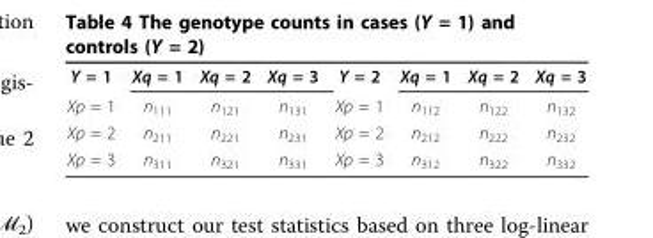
<table><tbody><tr><td>Y = 1</td><td>Xq = 1</td><td>Xq = 2</td><td>Xq = 3</td><td>Y = 2</td><td>Xq = 1</td><td>Xq = 2</td><td>Xq = 3</td></tr><tr><td>Xp = 1</td><td>n<sub>111</sub></td><td>n<sub>121</sub></td><td>n<sub>131</sub></td><td>Xp = 1</td><td>n<sub>112</sub></td><td>n<sub>122</sub></td><td>n<sub>132</sub></td></tr><tr><td>Xp = 2</td><td>n<sub>211</sub></td><td>n<sub>221</sub></td><td>n<sub>231</sub></td><td>Xp = 2</td><td>n<sub>212</sub></td><td>n<sub>222</sub></td><td>n<sub>232</sub></td></tr><tr><td>Xp = 3</td><td>n<sub>311</sub></td><td>n<sub>321</sub></td><td>n<sub>331</sub></td><td>Xp = 3</td><td>n<sub>312</sub></td><td>n<sub>322</sub></td><td>n<sub>332</sub></td></tr></tbody></table>